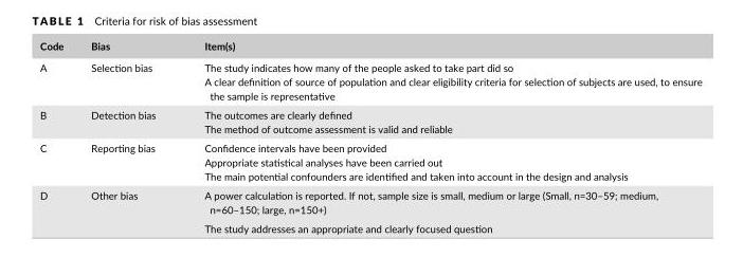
<table><thead><tr><td>Code</td><td>Bias</td><td>Item(s)</td></tr></thead><tbody><tr><td rowspan="2">A</td><td rowspan="2">Selection bias</td><td>The study indicates how many of the people asked to take part did so</td></tr><tr><td>A clear definition of source of population and clear eligibility criteria for selection of subjects are used, to ensure the sample is representative</td></tr><tr><td rowspan="2">B</td><td rowspan="2">Detection bias</td><td>The outcomes are clearly defined</td></tr><tr><td>The method of outcome assessment is valid and reliable</td></tr><tr><td rowspan="3">C</td><td rowspan="3">Reporting bias</td><td>Confidence intervals have been provided</td></tr><tr><td>Appropriate statistical analyses have been carried out</td></tr><tr><td>The main potential confounders are identified and taken into account in the design and analysis</td></tr><tr><td rowspan="2">D</td><td rowspan="2">Other bias</td><td>A power calculation is reported. If not, sample size is small, medium or large (Small, n=30–59; medium, n=60–150; large, n=150+)</td></tr><tr><td>The study addresses an appropriate and clearly focused question</td></tr></tbody></table>